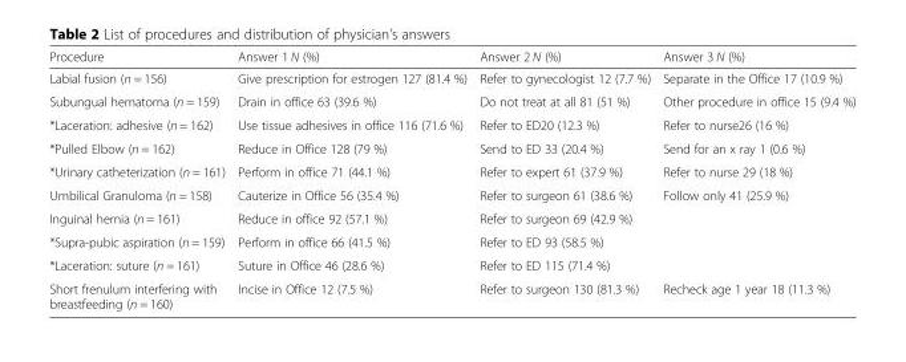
<table><thead><tr><td>Procedure</td><td>Answer 1 N (%)</td><td>Answer 2 N (%)</td><td>Answer 3 N (%)</td></tr></thead><tbody><tr><td>Labial fusion (n = 156)</td><td>Give prescription for estrogen 127 (81.4 %)</td><td>Refer to gynecologist 12 (7.7 %)</td><td>Separate in the Office 17 (10.9 %)</td></tr><tr><td>Subungual hematoma (n = 159)</td><td>Drain in office 63 (39.6 %)</td><td>Do not treat at all 81 (51 %)</td><td>Other procedure in office 15 (9.4 %)</td></tr><tr><td>*Laceration: adhesive (n = 162)</td><td>Use tissue adhesives in office 116 (71.6 %)</td><td>Refer to ED20 (12.3 %)</td><td>Refer to nurse26 (16 %)</td></tr><tr><td>*Pulled Elbow (n = 162)</td><td>Reduce in Office 128 (79 %)</td><td>Send to ED 33 (20.4 %)</td><td>Send for an x ray 1 (0.6 %)</td></tr><tr><td>*Urinary catheterization (n = 161)</td><td>Perform in office 71 (44.1 %)</td><td>Refer to expert 61 (37.9 %)</td><td>Refer to nurse 29 (18 %)</td></tr><tr><td>Umbilical Granuloma (n = 158)</td><td>Cauterize in Office 56 (35.4 %)</td><td>Refer to surgeon 61 (38.6 %)</td><td>Follow only 41 (25.9 %)</td></tr><tr><td>Inguinal hernia (n = 161)</td><td>Reduce in office 92 (57.1 %)</td><td>Refer to surgeon 69 (42.9 %)</td><td></td></tr><tr><td>*Supra-pubic aspiration (n = 159)</td><td>Perform in office 66 (41.5 %)</td><td>Refer to ED 93 (58.5 %)</td><td></td></tr><tr><td>*Laceration: suture (n = 161)</td><td>Suture in Office 46 (28.6 %)</td><td>Refer to ED 115 (71.4 %)</td><td></td></tr><tr><td>Short frenulum interfering with breastfeeding (n = 160)</td><td>Incise in Office 12 (7.5 %)</td><td>Refer to surgeon 130 (81.3 %)</td><td>Recheck age 1 year 18 (11.3 %)</td></tr></tbody></table>